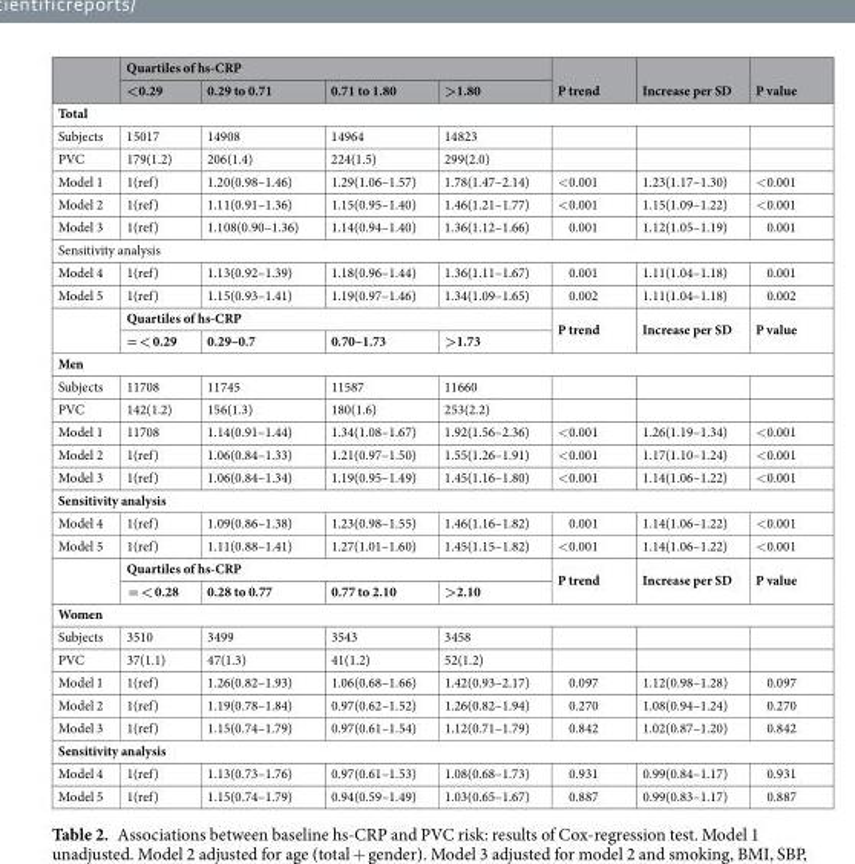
<table><thead><tr><td rowspan="2"></td><td colspan="4">Quartiles of hs-CRP</td><td rowspan="2">P trend</td><td rowspan="2">Increase per SD</td><td rowspan="2">P value</td></tr><tr><td>&lt;0.29</td><td>0.29 to 0.71</td><td>0.71 to 1.80</td><td>&gt;1.80</td></tr></thead><tbody><tr><td colspan="8">Total</td></tr><tr><td>Subjects</td><td>15017</td><td>14908</td><td>14964</td><td>14823</td><td></td><td></td><td></td></tr><tr><td>PVC</td><td>179(1.2)</td><td>206(1.4)</td><td>224(1.5)</td><td>299(2.0)</td><td></td><td></td><td></td></tr><tr><td>Model 1</td><td>1(ref)</td><td>1.20(0.98–1.46)</td><td>1.29(1.06–1.57)</td><td>1.78(1.47–2.14)</td><td>&lt;0.001</td><td>1.23(1.17–1.30)</td><td>&lt;0.001</td></tr><tr><td>Model 2</td><td>1(ref)</td><td>1.11(0.91–1.36)</td><td>1.15(0.95–1.40)</td><td>1.46(1.21–1.77)</td><td>&lt;0.001</td><td>1.15(1.09–1.22)</td><td>&lt;0.001</td></tr><tr><td>Model 3</td><td>1(ref)</td><td>1.108(0.90–1.36)</td><td>1.14(0.94–1.40)</td><td>1.36(1.12–1.66)</td><td>0.001</td><td>1.12(1.05–1.19)</td><td>0.001</td></tr><tr><td colspan="8">Sensitivity analysis</td></tr><tr><td>Model 4</td><td>1(ref)</td><td>1.13(0.92–1.39)</td><td>1.18(0.96–1.44)</td><td>1.36(1.11–1.67)</td><td>0.001</td><td>1.11(1.04–1.18)</td><td>0.001</td></tr><tr><td rowspan="3">Model 5</td><td>1(ref)</td><td>1.15(0.93–1.41)</td><td>1.19(0.97–1.46)</td><td>1.34(1.09–1.65)</td><td>0.002</td><td>1.11(1.04–1.18)</td><td>0.002</td></tr><tr><td colspan="4">Quartiles of hs-CRP</td><td rowspan="2">P trend</td><td rowspan="2">Increase per SD</td><td rowspan="2">P value</td></tr><tr><td>= &lt; 0.29</td><td>0.29–0.7</td><td>0.70–1.73</td><td>&gt;1.73</td></tr><tr><td colspan="8">Men</td></tr><tr><td>Subjects</td><td>11708</td><td>11745</td><td>11587</td><td>11660</td><td></td><td></td><td></td></tr><tr><td>PVC</td><td>142(1.2)</td><td>156(1.3)</td><td>180(1.6)</td><td>253(2.2)</td><td></td><td></td><td></td></tr><tr><td>Model 1</td><td>11708</td><td>1.14(0.91–1.44)</td><td>1.34(1.08–1.67)</td><td>1.92(1.56–2.36)</td><td>&lt;0.001</td><td>1.26(1.19–1.34)</td><td>&lt;0.001</td></tr><tr><td>Model 2</td><td>1(ref)</td><td>1.06(0.84–1.33)</td><td>1.21(0.97–1.50)</td><td>1.55(1.26–1.91)</td><td>&lt;0.001</td><td>1.17(1.10–1.24)</td><td>&lt;0.001</td></tr><tr><td>Model 3</td><td>1(ref)</td><td>1.06(0.84–1.34)</td><td>1.19(0.95–1.49)</td><td>1.45(1.16–1.80)</td><td>&lt;0.001</td><td>1.14(1.06–1.22)</td><td>&lt;0.001</td></tr><tr><td colspan="8">Sensitivity analysis</td></tr><tr><td>Model 4</td><td>1(ref)</td><td>1.09(0.86–1.38)</td><td>1.23(0.98–1.55)</td><td>1.46(1.16–1.82)</td><td>0.001</td><td>1.14(1.06–1.22)</td><td>&lt;0.001</td></tr><tr><td rowspan="3">Model 5</td><td>1(ref)</td><td>1.11(0.88–1.41)</td><td>1.27(1.01–1.60)</td><td>1.45(1.15–1.82)</td><td>&lt;0.001</td><td>1.14(1.06–1.22)</td><td>&lt;0.001</td></tr><tr><td colspan="4">Quartiles of hs-CRP</td><td rowspan="2">P trend</td><td rowspan="2">Increase per SD</td><td rowspan="2">P value</td></tr><tr><td>= &lt; 0.28</td><td>0.28 to 0.77</td><td>0.77 to 2.10</td><td>&gt;2.10</td></tr><tr><td colspan="8">Women</td></tr><tr><td>Subjects</td><td>3510</td><td>3499</td><td>3543</td><td>3458</td><td></td><td></td><td></td></tr><tr><td>PVC</td><td>37(1.1)</td><td>47(1.3)</td><td>41(1.2)</td><td>52(1.2)</td><td></td><td></td><td></td></tr><tr><td>Model 1</td><td>1(ref)</td><td>1.26(0.82–1.93)</td><td>1.06(0.68–1.66)</td><td>1.42(0.93–2.17)</td><td>0.097</td><td>1.12(0.98–1.28)</td><td>0.097</td></tr><tr><td>Model 2</td><td>1(ref)</td><td>1.19(0.78–1.84)</td><td>0.97(0.62–1.52)</td><td>1.26(0.82–1.94)</td><td>0.270</td><td>1.08(0.94–1.24)</td><td>0.270</td></tr><tr><td>Model 3</td><td>1(ref)</td><td>1.15(0.74–1.79)</td><td>0.97(0.61–1.54)</td><td>1.12(0.71–1.79)</td><td>0.842</td><td>1.02(0.87–1.20)</td><td>0.842</td></tr><tr><td colspan="8">Sensitivity analysis</td></tr><tr><td>Model 4</td><td>1(ref)</td><td>1.13(0.73–1.76)</td><td>0.97(0.61–1.53)</td><td>1.08(0.68–1.73)</td><td>0.931</td><td>0.99(0.84–1.17)</td><td>0.931</td></tr><tr><td>Model 5</td><td>1(ref)</td><td>1.15(0.74–1.79)</td><td>0.94(0.59–1.49)</td><td>1.03(0.65–1.67)</td><td>0.887</td><td>0.99(0.83–1.17)</td><td>0.887</td></tr></tbody></table>